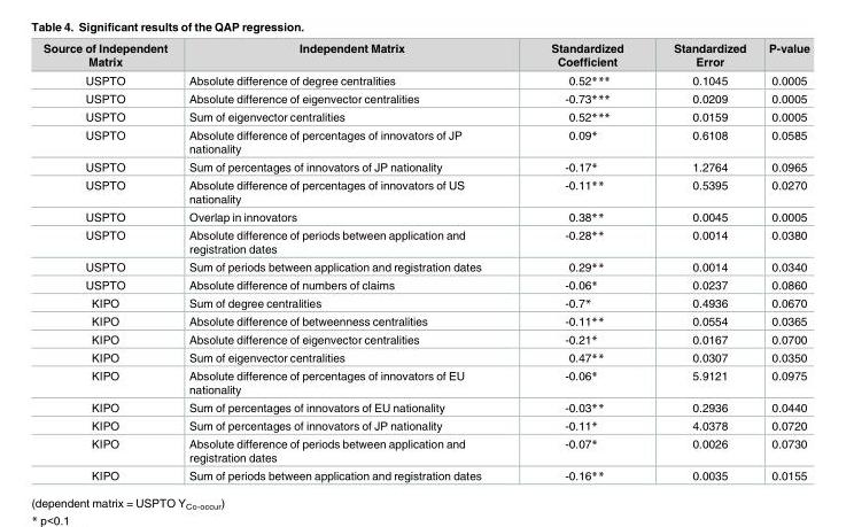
<table><thead><tr><td>Source of Independent Matrix</td><td>Independent Matrix</td><td>Standardized Coefficient</td><td>Standardized Error</td><td>P-value</td></tr></thead><tbody><tr><td>USPTO</td><td>Absolute difference of degree centralities</td><td>0.52***</td><td>0.1045</td><td>0.0005</td></tr><tr><td>USPTO</td><td>Absolute difference of eigenvector centralities</td><td>-0.73***</td><td>0.0209</td><td>0.0005</td></tr><tr><td>USPTO</td><td>Sum of eigenvector centralities</td><td>0.52***</td><td>0.0159</td><td>0.0005</td></tr><tr><td>USPTO</td><td>Absolute difference of percentages of innovators of JP nationality</td><td>0.09*</td><td>0.6108</td><td>0.0585</td></tr><tr><td>USPTO</td><td>Sum of percentages of innovators of JP nationality</td><td>-0.17*</td><td>1.2764</td><td>0.0965</td></tr><tr><td>USPTO</td><td>Absolute difference of percentages of innovators of US nationality</td><td>-0.11**</td><td>0.5395</td><td>0.0270</td></tr><tr><td>USPTO</td><td>Overlap in innovators</td><td>0.38**</td><td>0.0045</td><td>0.0005</td></tr><tr><td>USPTO</td><td>Absolute difference of periods between application and registration dates</td><td>-0.28**</td><td>0.0014</td><td>0.0380</td></tr><tr><td>USPTO</td><td>Sum of periods between application and registration dates</td><td>0.29**</td><td>0.0014</td><td>0.0340</td></tr><tr><td>USPTO</td><td>Absolute difference of numbers of claims</td><td>-0.06*</td><td>0.0237</td><td>0.0860</td></tr><tr><td>KIPO</td><td>Sum of degree centralities</td><td>-0.7*</td><td>0.4936</td><td>0.0670</td></tr><tr><td>KIPO</td><td>Absolute difference of betweenness centralities</td><td>-0.11**</td><td>0.0554</td><td>0.0365</td></tr><tr><td>KIPO</td><td>Absolute difference of eigenvector centralities</td><td>-0.21*</td><td>0.0167</td><td>0.0700</td></tr><tr><td>KIPO</td><td>Sum of eigenvector centralities</td><td>0.47**</td><td>0.0307</td><td>0.0350</td></tr><tr><td>KIPO</td><td>Absolute difference of percentages of innovators of EU nationality</td><td>-0.06*</td><td>5.9121</td><td>0.0975</td></tr><tr><td>KIPO</td><td>Sum of percentages of innovators of EU nationality</td><td>-0.03**</td><td>0.2936</td><td>0.0440</td></tr><tr><td>KIPO</td><td>Sum of percentages of innovators of JP nationality</td><td>-0.11*</td><td>4.0378</td><td>0.0720</td></tr><tr><td>KIPO</td><td>Absolute difference of periods between application and registration dates</td><td>-0.07*</td><td>0.0026</td><td>0.0730</td></tr><tr><td>KIPO</td><td>Sum of periods between application and registration dates</td><td>-0.16**</td><td>0.0035</td><td>0.0155</td></tr></tbody></table>